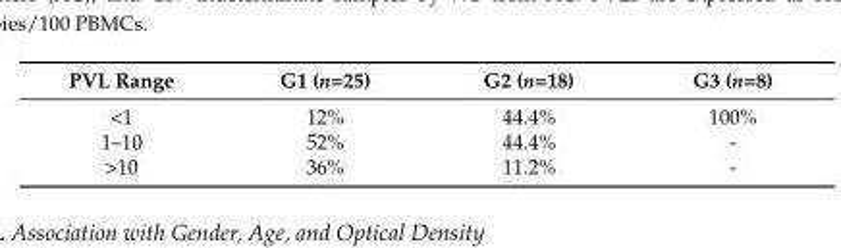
<table><thead><tr><td>PVL Range</td><td>G1 (n=25)</td><td>G2 (n=18)</td><td>G3 (n=8)</td></tr></thead><tbody><tr><td>&lt;1</td><td>12%</td><td>44.4%</td><td>100%</td></tr><tr><td>1–10</td><td>52%</td><td>44.4%</td><td>-</td></tr><tr><td>&gt;10</td><td>36%</td><td>11.2%</td><td>-</td></tr></tbody></table>